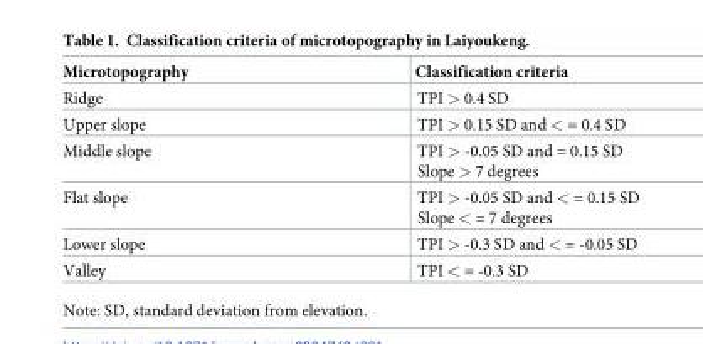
<table><thead><tr><td>Microtopography</td><td>Classification criteria</td></tr></thead><tbody><tr><td>Ridge</td><td>TPI &gt; 0.4 SD</td></tr><tr><td>Upper slope</td><td>TPI &gt; 0.15 SD and &lt; = 0.4 SD</td></tr><tr><td>Middle slope</td><td>TPI &gt; -0.05 SD and = 0.15 SD Slope &gt; 7 degrees</td></tr><tr><td>Flat slope</td><td>TPI &gt; -0.05 SD and &lt; = 0.15 SD Slope &lt; = 7 degrees</td></tr><tr><td>Lower slope</td><td>TPI &gt; -0.3 SD and &lt; = -0.05 SD</td></tr><tr><td>Valley</td><td>TPI &lt; = -0.3 SD</td></tr></tbody></table>